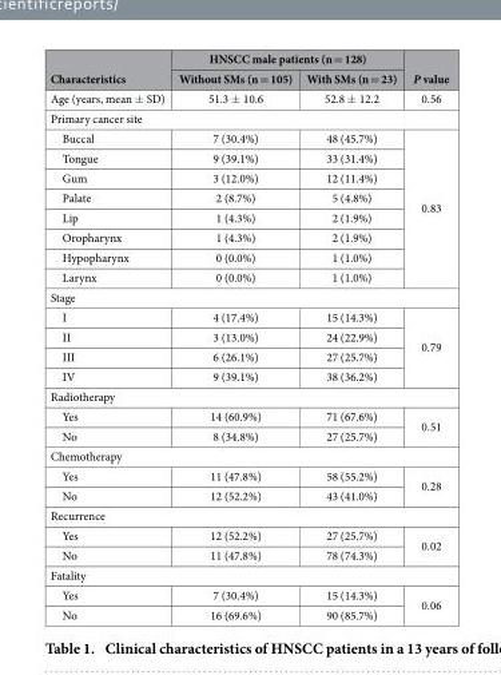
<table><thead><tr><td rowspan="2">Characteristics</td><td colspan="2">HNSCC male patients (n = 128)</td><td rowspan="2">P value</td></tr><tr><td>Without SMs (n = 105)</td><td>With SMs (n = 23)</td></tr></thead><tbody><tr><td>Age (years, mean ± SD)</td><td>51.3 ± 10.6</td><td>52.8 ± 12.2</td><td>0.56</td></tr><tr><td colspan="4">Primary cancer site</td></tr><tr><td>Buccal</td><td>7 (30.4%)</td><td>48 (45.7%)</td><td rowspan="8">0.83</td></tr><tr><td>Tongue</td><td>9 (39.1%)</td><td>33 (31.4%)</td></tr><tr><td>Gum</td><td>3 (12.0%)</td><td>12 (11.4%)</td></tr><tr><td>Palate</td><td>2 (8.7%)</td><td>5 (4.8%)</td></tr><tr><td>Lip</td><td>1 (4.3%)</td><td>2 (1.9%)</td></tr><tr><td>Oropharynx</td><td>1 (4.3%)</td><td>2 (1.9%)</td></tr><tr><td>Hypopharynx</td><td>0 (0.0%)</td><td>1 (1.0%)</td></tr><tr><td>Larynx</td><td>0 (0.0%)</td><td>1 (1.0%)</td></tr><tr><td colspan="4">Stage</td></tr><tr><td>I</td><td>4 (17.4%)</td><td>15 (14.3%)</td><td rowspan="4">0.79</td></tr><tr><td>II</td><td>3 (13.0%)</td><td>24 (22.9%)</td></tr><tr><td>III</td><td>6 (26.1%)</td><td>27 (25.7%)</td></tr><tr><td>IV</td><td>9 (39.1%)</td><td>38 (36.2%)</td></tr><tr><td colspan="4">Radiotherapy</td></tr><tr><td>Yes</td><td>14 (60.9%)</td><td>71 (67.6%)</td><td rowspan="2">0.51</td></tr><tr><td>No</td><td>8 (34.8%)</td><td>27 (25.7%)</td></tr><tr><td colspan="4">Chemotherapy</td></tr><tr><td>Yes</td><td>11 (47.8%)</td><td>58 (55.2%)</td><td rowspan="2">0.28</td></tr><tr><td>No</td><td>12 (52.2%)</td><td>43 (41.0%)</td></tr><tr><td colspan="4">Recurrence</td></tr><tr><td>Yes</td><td>12 (52.2%)</td><td>27 (25.7%)</td><td rowspan="2">0.02</td></tr><tr><td>No</td><td>11 (47.8%)</td><td>78 (74.3%)</td></tr><tr><td colspan="4">Fatality</td></tr><tr><td>Yes</td><td>7 (30.4%)</td><td>15 (14.3%)</td><td rowspan="2">0.06</td></tr><tr><td>No</td><td>16 (69.6%)</td><td>90 (85.7%)</td></tr></tbody></table>